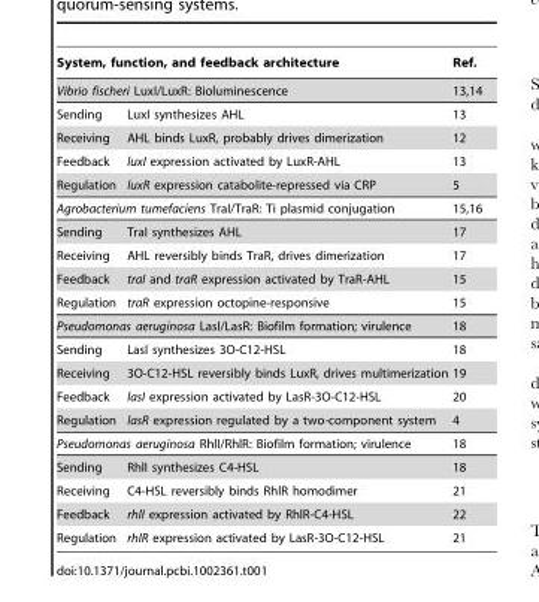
<table><thead><tr><td rowspan="2" colspan="2">System, function, and feedback architecture Vibrio fischeri LuxI/LuxR: Bioluminescence</td><td rowspan="3">Ref. 13,14 13</td></tr><tr></tr><tr><td>Sending</td><td>LuxI synthesizes AHL</td></tr></thead><tbody><tr><td>Receiving</td><td>AHL binds LuxR, probably drives dimerization</td><td>12</td></tr><tr><td>Feedback</td><td>luxI expression activated by LuxR-AHL</td><td>13</td></tr><tr><td>Regulation</td><td>luxR expression catabolite-repressed via CRP</td><td>5</td></tr><tr><td colspan="2">Agrobacterium tumefaciens TraI/TraR: Ti plasmid conjugation</td><td>15,16</td></tr><tr><td>Sending</td><td>TraI synthesizes AHL</td><td>17</td></tr><tr><td>Receiving</td><td>AHL reversibly binds TraR, drives dimerization</td><td>17</td></tr><tr><td>Feedback</td><td>traI and traR expression activated by TraR-AHL</td><td>15</td></tr><tr><td>Regulation</td><td>traR expression octopine-responsive</td><td>15</td></tr><tr><td colspan="2">Pseudomonas aeruginosa LasI/LasR: Biofilm formation; virulence</td><td>18</td></tr><tr><td>Sending</td><td>LasI synthesizes 3O-C12-HSL</td><td>18</td></tr><tr><td>Receiving</td><td>3O-C12-HSL reversibly binds LuxR, drives multimerization</td><td>19</td></tr><tr><td>Feedback</td><td>lasI expression activated by LasR-3O-C12-HSL</td><td>20</td></tr><tr><td>Regulation</td><td>lasR expression regulated by a two-component system</td><td>4</td></tr><tr><td colspan="2">Pseudomonas aeruginosa RhlI/RhlR: Biofilm formation; virulence</td><td>18</td></tr><tr><td>Sending</td><td>RhlI synthesizes C4-HSL</td><td>18</td></tr><tr><td>Receiving</td><td>C4-HSL reversibly binds RhlR homodimer</td><td>21</td></tr><tr><td>Feedback</td><td>rhlI expression activated by RhlR-C4-HSL</td><td>22</td></tr><tr><td>Regulation</td><td>rhlR expression activated by LasR-3O-C12-HSL</td><td>21</td></tr></tbody></table>